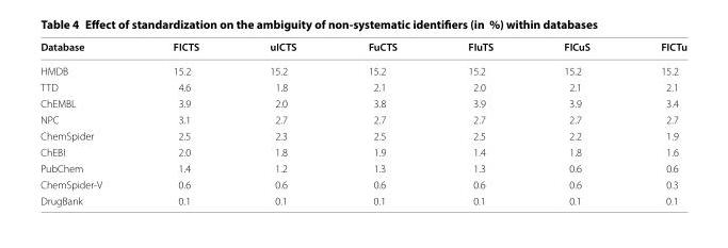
<table><thead><tr><td>Database</td><td>FICTS</td><td>uICTS</td><td>FuCTS</td><td>FIuTS</td><td>FICuS</td><td>FICTu</td></tr></thead><tbody><tr><td>HMDB</td><td>15.2</td><td>15.2</td><td>15.2</td><td>15.2</td><td>15.2</td><td>15.2</td></tr><tr><td>TTD</td><td>4.6</td><td>1.8</td><td>2.1</td><td>2.0</td><td>2.1</td><td>2.1</td></tr><tr><td>ChEMBL</td><td>3.9</td><td>2.0</td><td>3.8</td><td>3.9</td><td>3.9</td><td>3.4</td></tr><tr><td>NPC</td><td>3.1</td><td>2.7</td><td>2.7</td><td>2.7</td><td>2.7</td><td>2.7</td></tr><tr><td>ChemSpider</td><td>2.5</td><td>2.3</td><td>2.5</td><td>2.5</td><td>2.2</td><td>1.9</td></tr><tr><td>ChEBI</td><td>2.0</td><td>1.8</td><td>1.9</td><td>1.4</td><td>1.8</td><td>1.6</td></tr><tr><td>PubChem</td><td>1.4</td><td>1.2</td><td>1.3</td><td>1.3</td><td>0.6</td><td>0.6</td></tr><tr><td>ChemSpider-V</td><td>0.6</td><td>0.6</td><td>0.6</td><td>0.6</td><td>0.6</td><td>0.3</td></tr><tr><td>DrugBank</td><td>0.1</td><td>0.1</td><td>0.1</td><td>0.1</td><td>0.1</td><td>0.1</td></tr></tbody></table>